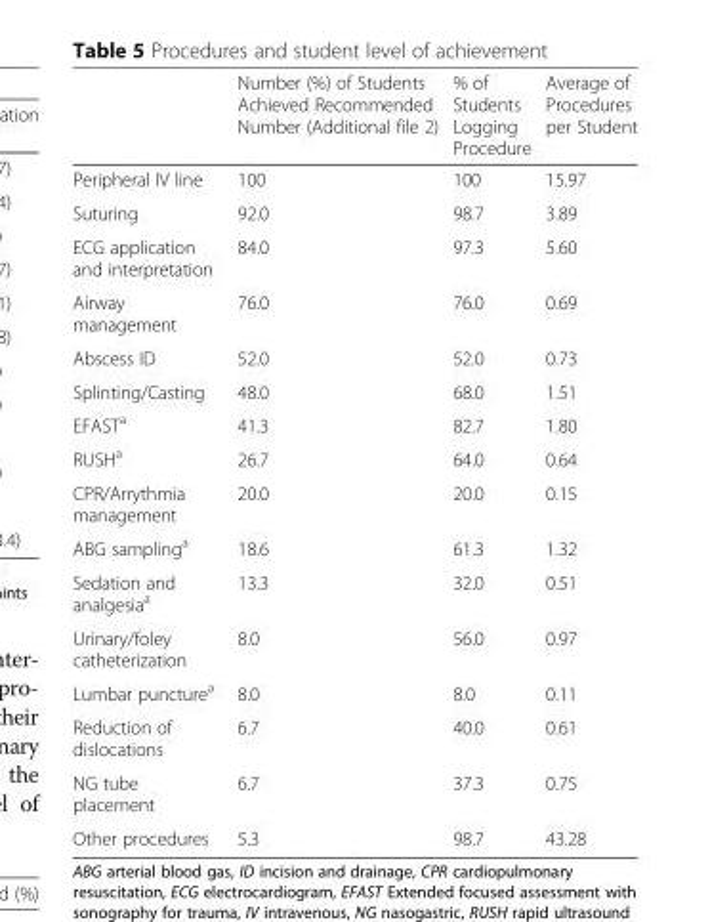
<table><thead><tr><td></td><td>Number (%) of Students Achieved Recommended Number (Additional file 2)</td><td>% of Students Logging Procedure</td><td>Average of Procedures per Student</td></tr></thead><tbody><tr><td>Peripheral IV line</td><td>100</td><td>100</td><td>15.97</td></tr><tr><td>Suturing</td><td>92.0</td><td>98.7</td><td>3.89</td></tr><tr><td>ECG application and interpretation</td><td>84.0</td><td>97.3</td><td>5.60</td></tr><tr><td>Airway management</td><td>76.0</td><td>76.0</td><td>0.69</td></tr><tr><td>Abscess ID</td><td>52.0</td><td>52.0</td><td>0.73</td></tr><tr><td>Splinting/Casting</td><td>48.0</td><td>68.0</td><td>1.51</td></tr><tr><td>EFAST<sup>a</sup></td><td>41.3</td><td>82.7</td><td>1.80</td></tr><tr><td>RUSH<sup>a</sup></td><td>26.7</td><td>64.0</td><td>0.64</td></tr><tr><td>CPR/Arrythmia management</td><td>20.0</td><td>20.0</td><td>0.15</td></tr><tr><td>ABG sampling<sup>a</sup></td><td>18.6</td><td>61.3</td><td>1.32</td></tr><tr><td>Sedation and analgesia<sup>a</sup></td><td>13.3</td><td>32.0</td><td>0.51</td></tr><tr><td>Urinary/foley catheterization</td><td>8.0</td><td>56.0</td><td>0.97</td></tr><tr><td>Lumbar puncture<sup>a</sup></td><td>8.0</td><td>8.0</td><td>0.11</td></tr><tr><td>Reduction of dislocations</td><td>6.7</td><td>40.0</td><td>0.61</td></tr><tr><td>NG tube placement</td><td>6.7</td><td>37.3</td><td>0.75</td></tr><tr><td>Other procedures</td><td>5.3</td><td>98.7</td><td>43.28</td></tr></tbody></table>